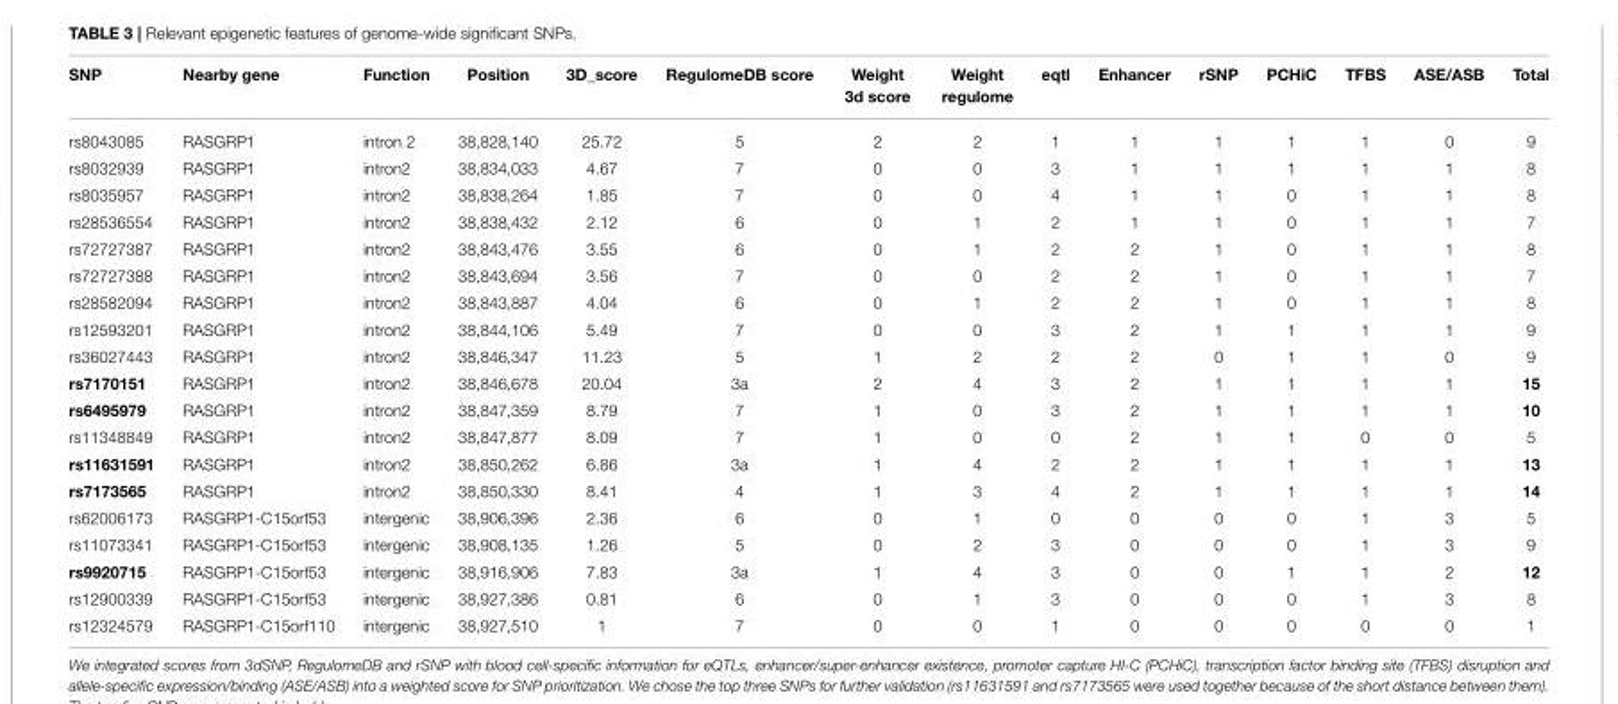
<table><thead><tr><td>SNP</td><td>Nearby gene</td><td>Function</td><td>Position</td><td>3D_score</td><td>RegulomeDB score</td><td>Weight 3d score</td><td>Weight regulome</td><td>eqtl</td><td>Enhancer</td><td>rSNP</td><td>PCHiC</td><td>TFBS</td><td>ASE/ASB</td><td>Total</td></tr></thead><tbody><tr><td>rs8043085</td><td>RASGRP1</td><td>intron 2</td><td>38,828,140</td><td>25.72</td><td>5</td><td>2</td><td>2</td><td>1</td><td>1</td><td>1</td><td>1</td><td>1</td><td>0</td><td>9</td></tr><tr><td>rs8032939</td><td>RASGRP1</td><td>intron2</td><td>38,834,033</td><td>4.67</td><td>7</td><td>0</td><td>0</td><td>3</td><td>1</td><td>1</td><td>1</td><td>1</td><td>1</td><td>8</td></tr><tr><td>rs8035957</td><td>RASGRP1</td><td>intron2</td><td>38,838,264</td><td>1.85</td><td>7</td><td>0</td><td>0</td><td>4</td><td>1</td><td>1</td><td>0</td><td>1</td><td>1</td><td>8</td></tr><tr><td>rs28536554</td><td>RASGRP1</td><td>intron2</td><td>38,838,432</td><td>2.12</td><td>6</td><td>0</td><td>1</td><td>2</td><td>1</td><td>1</td><td>0</td><td>1</td><td>1</td><td>7</td></tr><tr><td>rs72727387</td><td>RASGRP1</td><td>intron2</td><td>38,843,476</td><td>3.55</td><td>6</td><td>0</td><td>1</td><td>2</td><td>2</td><td>1</td><td>0</td><td>1</td><td>1</td><td>8</td></tr><tr><td>rs72727388</td><td>RASGRP1</td><td>intron2</td><td>38,843,694</td><td>3.56</td><td>7</td><td>0</td><td>0</td><td>2</td><td>2</td><td>1</td><td>0</td><td>1</td><td>1</td><td>7</td></tr><tr><td>rs28582094</td><td>RASGRP1</td><td>intron2</td><td>38,843,887</td><td>4.04</td><td>6</td><td>0</td><td>1</td><td>2</td><td>2</td><td>1</td><td>0</td><td>1</td><td>1</td><td>8</td></tr><tr><td>rs12593201</td><td>RASGRP1</td><td>intron2</td><td>38,844,106</td><td>5.49</td><td>7</td><td>0</td><td>0</td><td>3</td><td>2</td><td>1</td><td>1</td><td>1</td><td>1</td><td>9</td></tr><tr><td>rs36027443</td><td>RASGRP1</td><td>intron2</td><td>38,846,347</td><td>11.23</td><td>5</td><td>1</td><td>2</td><td>2</td><td>2</td><td>0</td><td>1</td><td>1</td><td>0</td><td>9</td></tr><tr><td>rs7170151</td><td>RASGRP1</td><td>intron2</td><td>38,846,678</td><td>20.04</td><td>3a</td><td>2</td><td>4</td><td>3</td><td>2</td><td>1</td><td>1</td><td>1</td><td>1</td><td>15</td></tr><tr><td>rs6495979</td><td>RASGRP1</td><td>intron2</td><td>38,847,359</td><td>8.79</td><td>7</td><td>1</td><td>0</td><td>3</td><td>2</td><td>1</td><td>1</td><td>1</td><td>1</td><td>10</td></tr><tr><td>rs11348849</td><td>RASGRP1</td><td>intron2</td><td>38,847,877</td><td>8.09</td><td>7</td><td>1</td><td>0</td><td>0</td><td>2</td><td>1</td><td>1</td><td>0</td><td>0</td><td>5</td></tr><tr><td>rs11631591</td><td>RASGRP1</td><td>intron2</td><td>38,850,262</td><td>6.86</td><td>3a</td><td>1</td><td>4</td><td>2</td><td>2</td><td>1</td><td>1</td><td>1</td><td>1</td><td>13</td></tr><tr><td>rs7173565</td><td>RASGRP1</td><td>intron2</td><td>38,850,330</td><td>8.41</td><td>4</td><td>1</td><td>3</td><td>4</td><td>2</td><td>1</td><td>1</td><td>1</td><td>1</td><td>14</td></tr><tr><td>rs62006173</td><td>RASGRP1-C15orf53</td><td>intergenic</td><td>38,906,396</td><td>2.36</td><td>6</td><td>0</td><td>1</td><td>0</td><td>0</td><td>0</td><td>0</td><td>1</td><td>3</td><td>5</td></tr><tr><td>rs11073341</td><td>RASGRP1-C15orf53</td><td>intergenic</td><td>38,908,135</td><td>1.26</td><td>5</td><td>0</td><td>2</td><td>3</td><td>0</td><td>0</td><td>0</td><td>1</td><td>3</td><td>9</td></tr><tr><td>rs9920715</td><td>RASGRP1-C15orf53</td><td>intergenic</td><td>38,916,906</td><td>7.83</td><td>3a</td><td>1</td><td>4</td><td>3</td><td>0</td><td>0</td><td>1</td><td>1</td><td>2</td><td>12</td></tr><tr><td>rs12900339</td><td>RASGRP1-C15orf53</td><td>intergenic</td><td>38,927,386</td><td>0.81</td><td>6</td><td>0</td><td>1</td><td>3</td><td>0</td><td>0</td><td>0</td><td>1</td><td>3</td><td>8</td></tr><tr><td>rs12324579</td><td>RASGRP1-C15orf110</td><td>intergenic</td><td>38,927,510</td><td>1</td><td>7</td><td>0</td><td>0</td><td>1</td><td>0</td><td>0</td><td>0</td><td>0</td><td>0</td><td>1</td></tr></tbody></table>